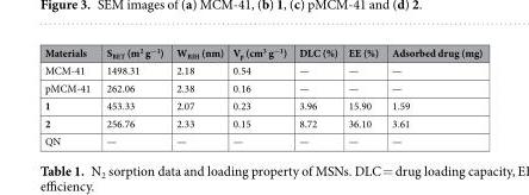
<table><thead><tr><td>Materials</td><td>S<sub>BET</sub> (m<sup>2</sup> g<sup>−1</sup>)</td><td>W<sub>BJH</sub> (nm)</td><td>V<sub>p</sub> (cm<sup>3</sup> g<sup>−1</sup>)</td><td>DLC (%)</td><td>EE (%)</td><td>Adsorbed drug (mg)</td></tr></thead><tbody><tr><td>MCM-41</td><td>1498.31</td><td>2.18</td><td>0.54</td><td>—</td><td>—</td><td>—</td></tr><tr><td>pMCM-41</td><td>262.06</td><td>2.38</td><td>0.16</td><td>—</td><td>—</td><td>—</td></tr><tr><td>1</td><td>453.33</td><td>2.07</td><td>0.23</td><td>3.96</td><td>15.90</td><td>1.59</td></tr><tr><td>2</td><td>256.76</td><td>2.33</td><td>0.15</td><td>8.72</td><td>36.10</td><td>3.61</td></tr><tr><td>QN</td><td>—</td><td>—</td><td>—</td><td>—</td><td>—</td><td>—</td></tr></tbody></table>